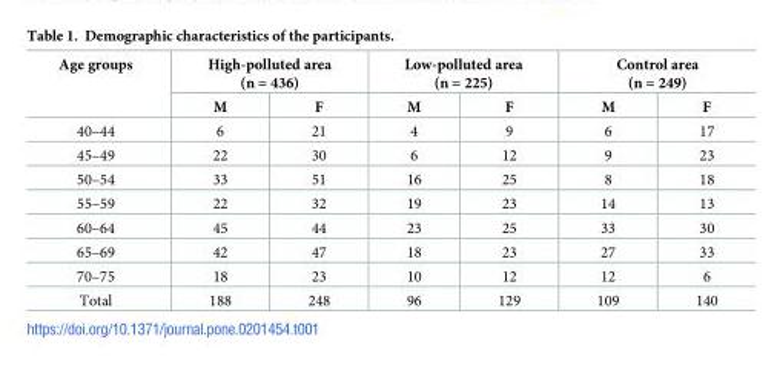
<table><thead><tr><td rowspan="2">Age groups</td><td colspan="2">High-polluted area (n = 436)</td><td colspan="2">Low-polluted area (n = 225)</td><td colspan="2">Control area (n = 249)</td></tr><tr><td>M</td><td>F</td><td>M</td><td>F</td><td>M</td><td>F</td></tr></thead><tbody><tr><td>40–44</td><td>6</td><td>21</td><td>4</td><td>9</td><td>6</td><td>17</td></tr><tr><td>45–49</td><td>22</td><td>30</td><td>6</td><td>12</td><td>9</td><td>23</td></tr><tr><td>50–54</td><td>33</td><td>51</td><td>16</td><td>25</td><td>8</td><td>18</td></tr><tr><td>55–59</td><td>22</td><td>32</td><td>19</td><td>23</td><td>14</td><td>13</td></tr><tr><td>60–64</td><td>45</td><td>44</td><td>23</td><td>25</td><td>33</td><td>30</td></tr><tr><td>65–69</td><td>42</td><td>47</td><td>18</td><td>23</td><td>27</td><td>33</td></tr><tr><td>70–75</td><td>18</td><td>23</td><td>10</td><td>12</td><td>12</td><td>6</td></tr><tr><td>Total</td><td>188</td><td>248</td><td>96</td><td>129</td><td>109</td><td>140</td></tr></tbody></table>